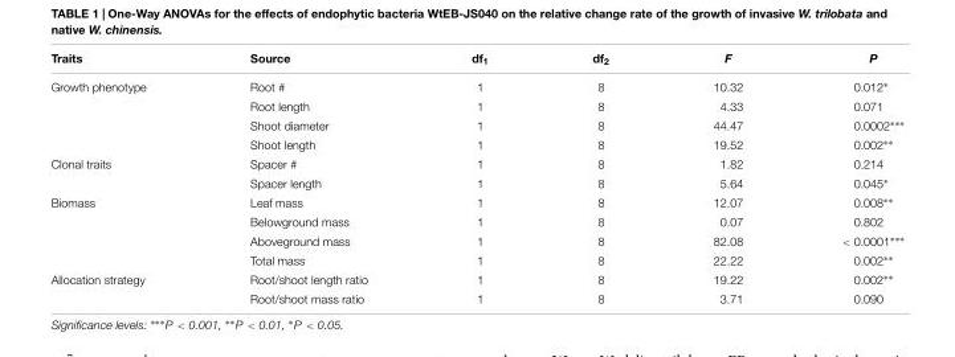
<table><thead><tr><td>Traits</td><td>Source</td><td>df<sub>1</sub></td><td>df<sub>2</sub></td><td>F</td><td>P</td></tr></thead><tbody><tr><td rowspan="4">Growth phenotype</td><td>Root #</td><td>1</td><td>8</td><td>10.32</td><td>0.012∗</td></tr><tr><td>Root length</td><td>1</td><td>8</td><td>4.33</td><td>0.071</td></tr><tr><td>Shoot diameter</td><td>1</td><td>8</td><td>44.47</td><td>0.0002∗∗∗</td></tr><tr><td>Shoot length</td><td>1</td><td>8</td><td>19.52</td><td>0.002∗∗</td></tr><tr><td rowspan="2">Clonal traits</td><td>Spacer #</td><td>1</td><td>8</td><td>1.82</td><td>0.214</td></tr><tr><td>Spacer length</td><td>1</td><td>8</td><td>5.64</td><td>0.045∗</td></tr><tr><td rowspan="4">Biomass</td><td>Leaf mass</td><td>1</td><td>8</td><td>12.07</td><td>0.008∗∗</td></tr><tr><td>Belowground mass</td><td>1</td><td>8</td><td>0.07</td><td>0.802</td></tr><tr><td>Aboveground mass</td><td>1</td><td>8</td><td>82.08</td><td>&lt; 0.0001∗∗∗</td></tr><tr><td>Total mass</td><td>1</td><td>8</td><td>22.22</td><td>0.002∗∗</td></tr><tr><td rowspan="2">Allocation strategy</td><td>Root/shoot length ratio</td><td>1</td><td>8</td><td>19.22</td><td>0.002∗∗</td></tr><tr><td>Root/shoot mass ratio</td><td>1</td><td>8</td><td>3.71</td><td>0.090</td></tr></tbody></table>